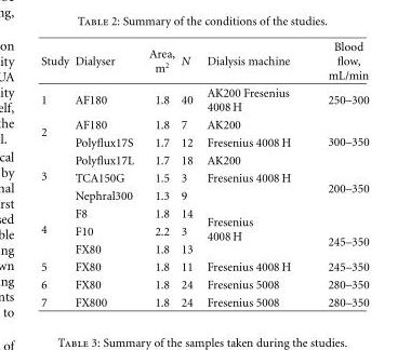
<table><thead><tr><td>Study</td><td>Dialyser</td><td>Area, m<sup>2</sup></td><td>N</td><td>Dialysis machine</td><td>Blood flow, mL/min</td></tr></thead><tbody><tr><td>1</td><td>AF180</td><td>1.8</td><td>40</td><td>AK200 Fresenius 4008 H</td><td>250–300</td></tr><tr><td rowspan="2">2</td><td>AF180</td><td>1.8</td><td>7</td><td>AK200</td><td rowspan="2">300–350</td></tr><tr><td>Polyflux17S</td><td>1.7</td><td>12</td><td>Fresenius 4008 H</td></tr><tr><td rowspan="3">3</td><td>Polyflux17L</td><td>1.7</td><td>18</td><td>AK200</td><td rowspan="3">200–350</td></tr><tr><td>TCA150G</td><td>1.5</td><td>3</td><td>Fresenius 4008 H</td></tr><tr><td>Nephral300</td><td>1.3</td><td>9</td><td></td></tr><tr><td rowspan="3">4</td><td>F8</td><td>1.8</td><td>14</td><td rowspan="3">Fresenius 4008 H</td><td rowspan="3">245–350</td></tr><tr><td>F10</td><td>2.2</td><td>3</td></tr><tr><td>FX80</td><td>1.8</td><td>13</td></tr><tr><td>5</td><td>FX80</td><td>1.8</td><td>11</td><td>Fresenius 4008 H</td><td>245–350</td></tr><tr><td>6</td><td>FX80</td><td>1.8</td><td>24</td><td>Fresenius 5008</td><td>280–350</td></tr><tr><td>7</td><td>FX800</td><td>1.8</td><td>24</td><td>Fresenius 5008</td><td>280–350</td></tr></tbody></table>